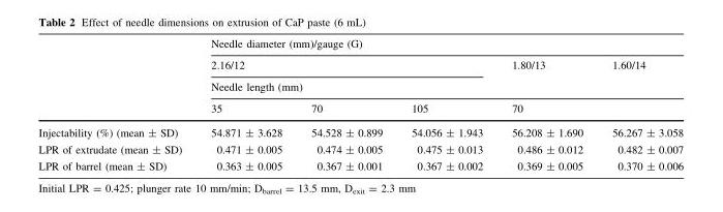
<table><thead><tr><td rowspan="4"></td><td colspan="5">Needle diameter (mm)/gauge (G)</td></tr><tr><td colspan="3">2.16/12</td><td>1.80/13</td><td>1.60/14</td></tr><tr><td colspan="5">Needle length (mm)</td></tr><tr><td>35</td><td>70</td><td>105</td><td colspan="2">70</td></tr></thead><tbody><tr><td>Injectability (%) (mean ± SD)</td><td>54.871 ± 3.628</td><td>54.528 ± 0.899</td><td>54.056 ± 1.943</td><td>56.208 ± 1.690</td><td>56.267 ± 3.058</td></tr><tr><td>LPR of extrudate (mean ± SD)</td><td>0.471 ± 0.005</td><td>0.474 ± 0.005</td><td>0.475 ± 0.013</td><td>0.486 ± 0.012</td><td>0.482 ± 0.007</td></tr><tr><td>LPR of barrel (mean ± SD)</td><td>0.363 ± 0.005</td><td>0.367 ± 0.001</td><td>0.367 ± 0.002</td><td>0.369 ± 0.005</td><td>0.370 ± 0.006</td></tr></tbody></table>